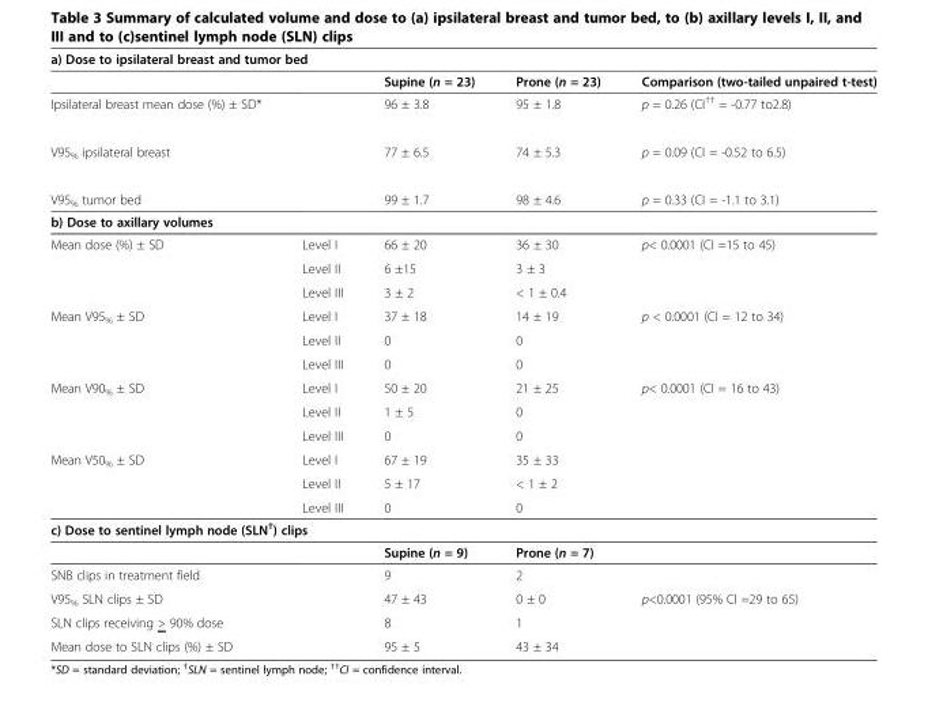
<table><thead><tr><td colspan="5">a) Dose to ipsilateral breast and tumor bed</td></tr><tr><td></td><td></td><td>Supine (n = 23)</td><td>Prone (n = 23)</td><td>Comparison (two-tailed unpaired t-test)</td></tr></thead><tbody><tr><td>Ipsilateral breast mean dose (%) ± SD*</td><td></td><td>96 ± 3.8</td><td>95 ± 1.8</td><td>p = 0.26 (CI<sup>††</sup> = -0.77 to2.8)</td></tr><tr><td>V95<sub>%</sub> ipsilateral breast</td><td></td><td>77 ± 6.5</td><td>74 ± 5.3</td><td>p = 0.09 (CI = -0.52 to 6.5)</td></tr><tr><td>V95<sub>%</sub> tumor bed</td><td></td><td>99 ± 1.7</td><td>98 ± 4.6</td><td>p = 0.33 (CI = -1.1 to 3.1)</td></tr><tr><td colspan="5">b) Dose to axillary volumes</td></tr><tr><td rowspan="3">Mean dose (%) ± SD</td><td>Level I</td><td>66 ± 20</td><td>36 ± 30</td><td>p&lt; 0.0001 (CI =15 to 45)</td></tr><tr><td>Level II</td><td>6 ±15</td><td>3 ± 3</td><td></td></tr><tr><td>Level III</td><td>3 ± 2</td><td>&lt; 1 ± 0.4</td><td></td></tr><tr><td rowspan="3">Mean V95<sub>%</sub> ± SD</td><td>Level I</td><td>37 ± 18</td><td>14 ± 19</td><td>p &lt; 0.0001 (CI = 12 to 34)</td></tr><tr><td>Level II</td><td>0</td><td>0</td><td></td></tr><tr><td>Level III</td><td>0</td><td>0</td><td></td></tr><tr><td rowspan="3">Mean V90<sub>%</sub> ± SD</td><td>Level I</td><td>50 ± 20</td><td>21 ± 25</td><td>p&lt; 0.0001 (CI = 16 to 43)</td></tr><tr><td>Level II</td><td>1 ± 5</td><td>0</td><td></td></tr><tr><td>Level III</td><td>0</td><td>0</td><td></td></tr><tr><td rowspan="3">Mean V50<sub>%</sub> ± SD</td><td>Level I</td><td>67 ± 19</td><td>35 ± 33</td><td></td></tr><tr><td>Level II</td><td>5 ± 17</td><td>&lt; 1 ± 2</td><td></td></tr><tr><td>Level III</td><td>0</td><td>0</td><td></td></tr><tr><td colspan="5">c) Dose to sentinel lymph node (SLN<sup>†</sup>) clips</td></tr><tr><td></td><td></td><td>Supine (n = 9)</td><td>Prone (n = 7)</td><td></td></tr><tr><td>SNB clips in treatment field</td><td></td><td>9</td><td>2</td><td></td></tr><tr><td>V95<sub>%</sub> SLN clips ± SD</td><td></td><td>47 ± 43</td><td>0 ± 0</td><td>p&lt;0.0001 (95% CI =29 to 65)</td></tr><tr><td>SLN clips receiving &gt; 90% dose</td><td></td><td>8</td><td>1</td><td></td></tr><tr><td>Mean dose to SLN clips (%) ± SD</td><td></td><td>95 ± 5</td><td>43 ± 34</td><td></td></tr></tbody></table>